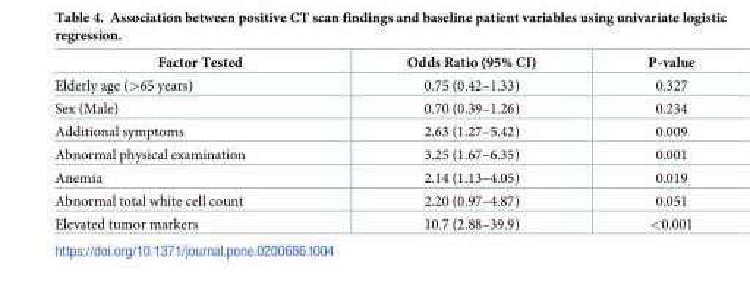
<table><thead><tr><td>Factor Tested</td><td>Odds Ratio (95% CI)</td><td>P-value</td></tr></thead><tbody><tr><td>Elderly age (&gt;65 years)</td><td>0.75 (0.42–1.33)</td><td>0.327</td></tr><tr><td>Sex (Male)</td><td>0.70 (0.39–1.26)</td><td>0.234</td></tr><tr><td>Additional symptoms</td><td>2.63 (1.27–5.42)</td><td>0.009</td></tr><tr><td>Abnormal physical examination</td><td>3.25 (1.67–6.35)</td><td>0.001</td></tr><tr><td>Anemia</td><td>2.14 (1.13–4.05)</td><td>0.019</td></tr><tr><td>Abnormal total white cell count</td><td>2.20 (0.97–4.87)</td><td>0.051</td></tr><tr><td>Elevated tumor markers</td><td>10.7 (2.88–39.9)</td><td>&lt;0.001</td></tr></tbody></table>